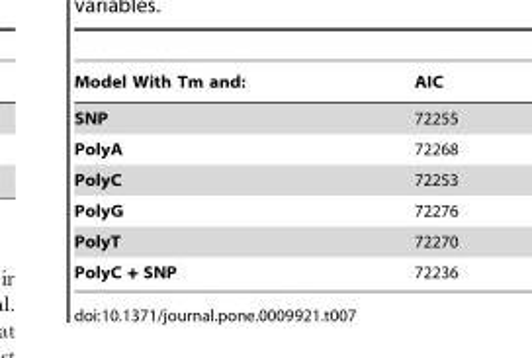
<table><thead><tr><td>Model With Tm and:</td><td>AIC</td></tr></thead><tbody><tr><td>SNP</td><td>72255</td></tr><tr><td>PolyA</td><td>72268</td></tr><tr><td>PolyC</td><td>72253</td></tr><tr><td>PolyG</td><td>72276</td></tr><tr><td>PolyT</td><td>72270</td></tr><tr><td>PolyC + SNP</td><td>72236</td></tr></tbody></table>